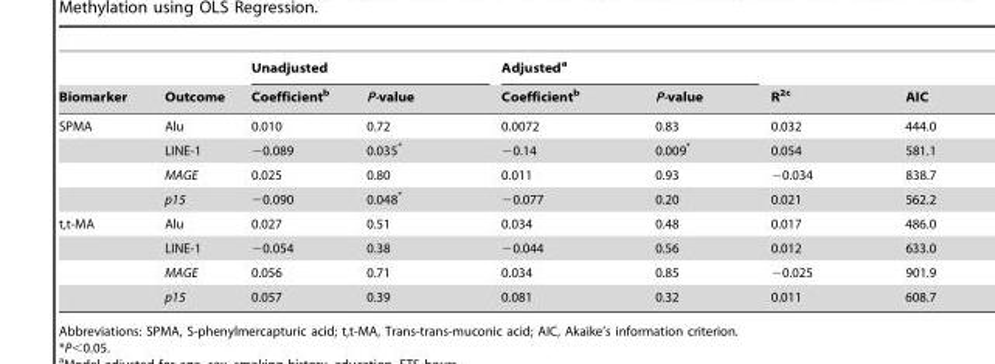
<table><thead><tr><td rowspan="2">Biomarker</td><td rowspan="2">Outcome</td><td colspan="2">Unadjusted</td><td colspan="2">Adjusted<sup>a</sup></td><td rowspan="2">R<sup>2c</sup></td><td rowspan="2">AIC</td></tr><tr><td>Coefficient<sup>b</sup></td><td>P-value</td><td>Coefficient<sup>b</sup></td><td>P-value</td></tr></thead><tbody><tr><td rowspan="4">SPMA</td><td>Alu</td><td>0.010</td><td>0.72</td><td>0.0072</td><td>0.83</td><td>0.032</td><td>444.0</td></tr><tr><td>LINE-1</td><td>−0.089</td><td>0.035*</td><td>−0.14</td><td>0.009*</td><td>0.054</td><td>581.1</td></tr><tr><td>MAGE</td><td>0.025</td><td>0.80</td><td>0.011</td><td>0.93</td><td>−0.034</td><td>838.7</td></tr><tr><td>p15</td><td>−0.090</td><td>0.048*</td><td>−0.077</td><td>0.20</td><td>0.021</td><td>562.2</td></tr><tr><td rowspan="4">t,t-MA</td><td>Alu</td><td>0.027</td><td>0.51</td><td>0.034</td><td>0.48</td><td>0.017</td><td>486.0</td></tr><tr><td>LINE-1</td><td>−0.054</td><td>0.38</td><td>−0.044</td><td>0.56</td><td>0.012</td><td>633.0</td></tr><tr><td>MAGE</td><td>0.056</td><td>0.71</td><td>0.034</td><td>0.85</td><td>−0.025</td><td>901.9</td></tr><tr><td>p15</td><td>0.057</td><td>0.39</td><td>0.081</td><td>0.32</td><td>0.011</td><td>608.7</td></tr></tbody></table>